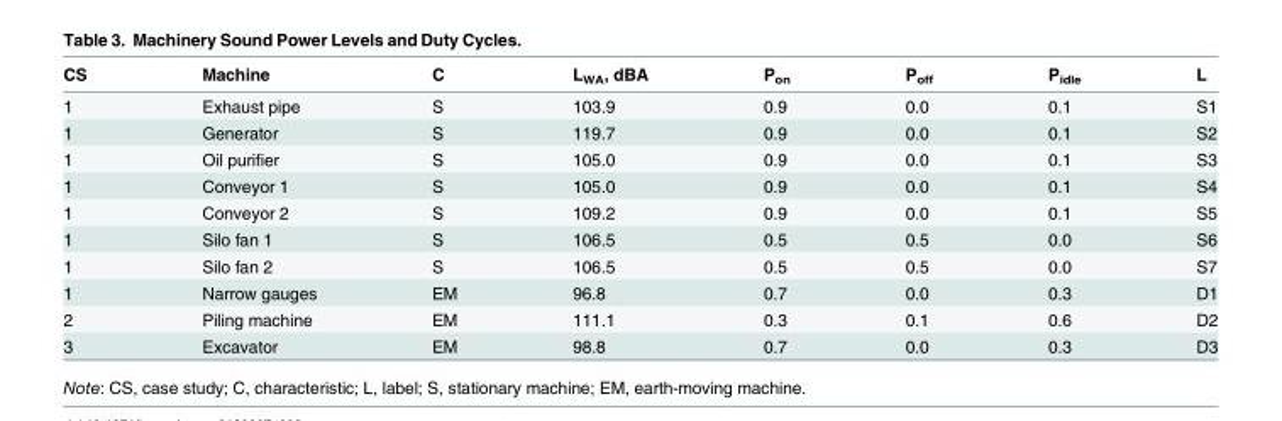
<table><thead><tr><td>CS</td><td>Machine</td><td>C</td><td>L<sub>WA</sub>, dBA</td><td>P<sub>on</sub></td><td>P<sub>off</sub></td><td>P<sub>idle</sub></td><td>L</td></tr></thead><tbody><tr><td>1</td><td>Exhaust pipe</td><td>S</td><td>103.9</td><td>0.9</td><td>0.0</td><td>0.1</td><td>S1</td></tr><tr><td>1</td><td>Generator</td><td>S</td><td>119.7</td><td>0.9</td><td>0.0</td><td>0.1</td><td>S2</td></tr><tr><td>1</td><td>Oil purifier</td><td>S</td><td>105.0</td><td>0.9</td><td>0.0</td><td>0.1</td><td>S3</td></tr><tr><td>1</td><td>Conveyor 1</td><td>S</td><td>105.0</td><td>0.9</td><td>0.0</td><td>0.1</td><td>S4</td></tr><tr><td>1</td><td>Conveyor 2</td><td>S</td><td>109.2</td><td>0.9</td><td>0.0</td><td>0.1</td><td>S5</td></tr><tr><td>1</td><td>Silo fan 1</td><td>S</td><td>106.5</td><td>0.5</td><td>0.5</td><td>0.0</td><td>S6</td></tr><tr><td>1</td><td>Silo fan 2</td><td>S</td><td>106.5</td><td>0.5</td><td>0.5</td><td>0.0</td><td>S7</td></tr><tr><td>1</td><td>Narrow gauges</td><td>EM</td><td>96.8</td><td>0.7</td><td>0.0</td><td>0.3</td><td>D1</td></tr><tr><td>2</td><td>Piling machine</td><td>EM</td><td>111.1</td><td>0.3</td><td>0.1</td><td>0.6</td><td>D2</td></tr><tr><td>3</td><td>Excavator</td><td>EM</td><td>98.8</td><td>0.7</td><td>0.0</td><td>0.3</td><td>D3</td></tr></tbody></table>